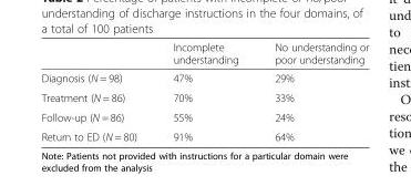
<table><thead><tr><td></td><td>Incomplete understanding</td><td>No understanding or poor understanding</td></tr></thead><tbody><tr><td>Diagnosis (N = 98)</td><td>47%</td><td>29%</td></tr><tr><td>Treatment (N = 86)</td><td>70%</td><td>33%</td></tr><tr><td>Follow-up (N = 86)</td><td>55%</td><td>24%</td></tr><tr><td>Return to ED (N = 80)</td><td>91%</td><td>64%</td></tr></tbody></table>